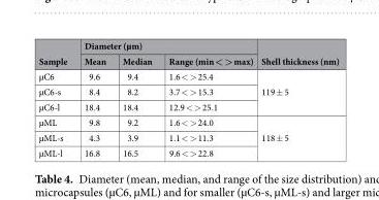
<table><thead><tr><td rowspan="2">Sample</td><td colspan="3">Diameter (µm)</td><td rowspan="2">Shell thickness (nm)</td></tr><tr><td>Mean</td><td>Median</td><td>Range (min &lt; &gt; max)</td></tr></thead><tbody><tr><td>µC6</td><td>9.6</td><td>9.4</td><td>1.6 &lt; &gt; 25.4</td><td rowspan="3">119 ± 5</td></tr><tr><td>µC6-s</td><td>8.4</td><td>8.2</td><td>3.7 &lt; &gt; 15.3</td></tr><tr><td>µC6-l</td><td>18.4</td><td>18.4</td><td>12.9 &lt; &gt; 25.1</td></tr><tr><td>µML</td><td>9.8</td><td>9.2</td><td>1.6 &lt; &gt; 24.0</td><td rowspan="3">118 ± 5</td></tr><tr><td>µML-s</td><td>4.3</td><td>3.9</td><td>1.1 &lt; &gt; 11.3</td></tr><tr><td>µML-l</td><td>16.8</td><td>16.5</td><td>9.6 &lt; &gt; 22.8</td></tr></tbody></table>